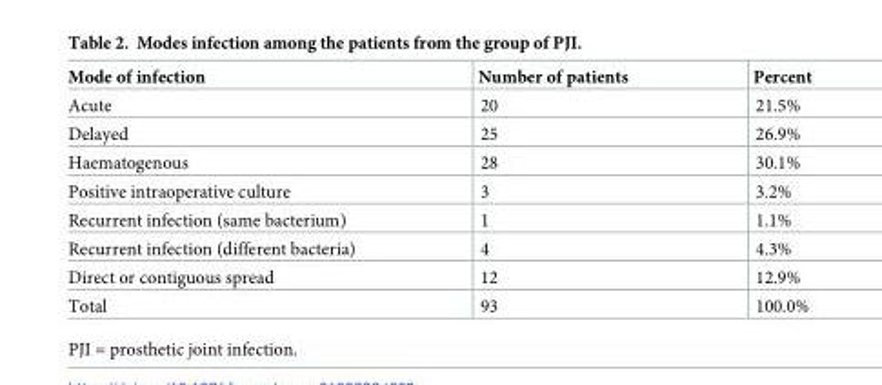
<table><thead><tr><td>Mode of infection</td><td>Number of patients</td><td>Percent</td></tr></thead><tbody><tr><td>Acute</td><td>20</td><td>21.5%</td></tr><tr><td>Delayed</td><td>25</td><td>26.9%</td></tr><tr><td>Haematogenous</td><td>28</td><td>30.1%</td></tr><tr><td>Positive intraoperative culture</td><td>3</td><td>3.2%</td></tr><tr><td>Recurrent infection (same bacterium)</td><td>1</td><td>1.1%</td></tr><tr><td>Recurrent infection (different bacteria)</td><td>4</td><td>4.3%</td></tr><tr><td>Direct or contiguous spread</td><td>12</td><td>12.9%</td></tr><tr><td>Total</td><td>93</td><td>100.0%</td></tr></tbody></table>